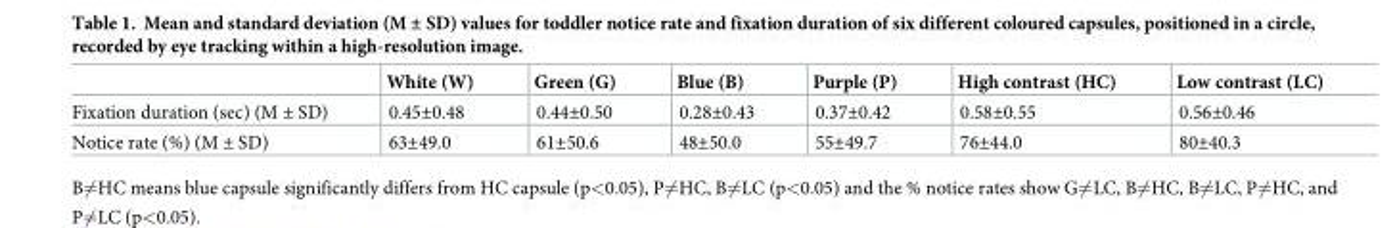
<table><thead><tr><td></td><td>White (W)</td><td>Green (G)</td><td>Blue (B)</td><td>Purple (P)</td><td>High contrast (HC)</td><td>Low contrast (LC)</td></tr></thead><tbody><tr><td>Fixation duration (sec) (M ± SD)</td><td>0.45±0.48</td><td>0.44±0.50</td><td>0.28±0.43</td><td>0.37±0.42</td><td>0.58±0.55</td><td>0.56±0.46</td></tr><tr><td>Notice rate (%) (M ± SD)</td><td>63±49.0</td><td>61±50.6</td><td>48±50.0</td><td>55±49.7</td><td>76±44.0</td><td>80±40.3</td></tr></tbody></table>